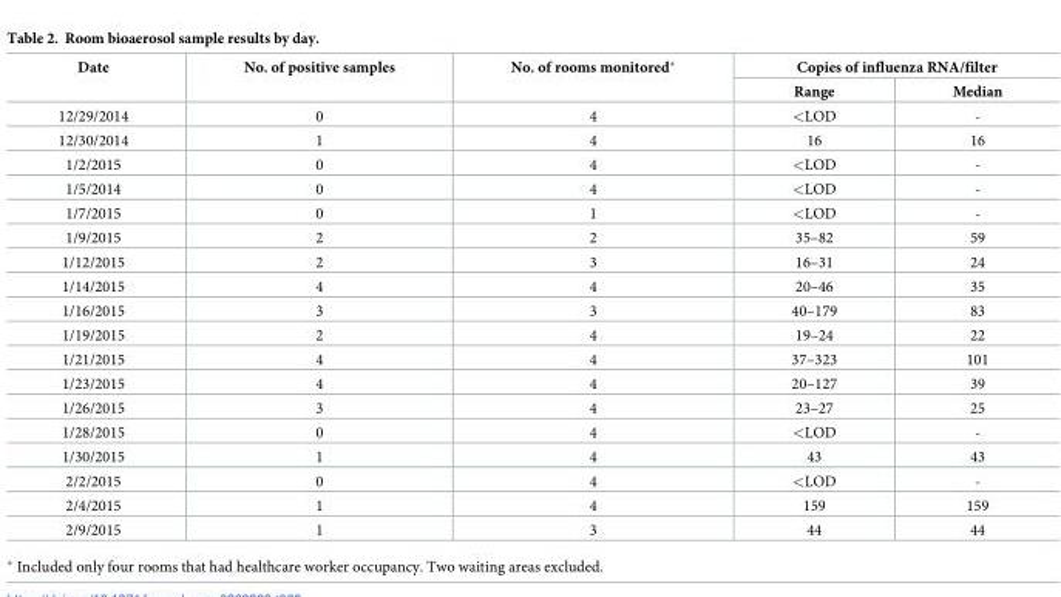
<table><thead><tr><td rowspan="2">Date</td><td rowspan="2">No. of positive samples</td><td rowspan="2">No. of rooms monitored*</td><td colspan="2">Copies of influenza RNA/filter</td></tr><tr><td>Range</td><td>Median</td></tr></thead><tbody><tr><td>12/29/2014</td><td>0</td><td>4</td><td>&lt;LOD</td><td>-</td></tr><tr><td>12/30/2014</td><td>1</td><td>4</td><td>16</td><td>16</td></tr><tr><td>1/2/2015</td><td>0</td><td>4</td><td>&lt;LOD</td><td>-</td></tr><tr><td>1/5/2014</td><td>0</td><td>4</td><td>&lt;LOD</td><td>-</td></tr><tr><td>1/7/2015</td><td>0</td><td>1</td><td>&lt;LOD</td><td>-</td></tr><tr><td>1/9/2015</td><td>2</td><td>2</td><td>35–82</td><td>59</td></tr><tr><td>1/12/2015</td><td>2</td><td>3</td><td>16–31</td><td>24</td></tr><tr><td>1/14/2015</td><td>4</td><td>4</td><td>20–46</td><td>35</td></tr><tr><td>1/16/2015</td><td>3</td><td>3</td><td>40–179</td><td>83</td></tr><tr><td>1/19/2015</td><td>2</td><td>4</td><td>19–24</td><td>22</td></tr><tr><td>1/21/2015</td><td>4</td><td>4</td><td>37–323</td><td>101</td></tr><tr><td>1/23/2015</td><td>4</td><td>4</td><td>20–127</td><td>39</td></tr><tr><td>1/26/2015</td><td>3</td><td>4</td><td>23–27</td><td>25</td></tr><tr><td>1/28/2015</td><td>0</td><td>4</td><td>&lt;LOD</td><td>-</td></tr><tr><td>1/30/2015</td><td>1</td><td>4</td><td>43</td><td>43</td></tr><tr><td>2/2/2015</td><td>0</td><td>4</td><td>&lt;LOD</td><td>-</td></tr><tr><td>2/4/2015</td><td>1</td><td>4</td><td>159</td><td>159</td></tr><tr><td>2/9/2015</td><td>1</td><td>3</td><td>44</td><td>44</td></tr></tbody></table>